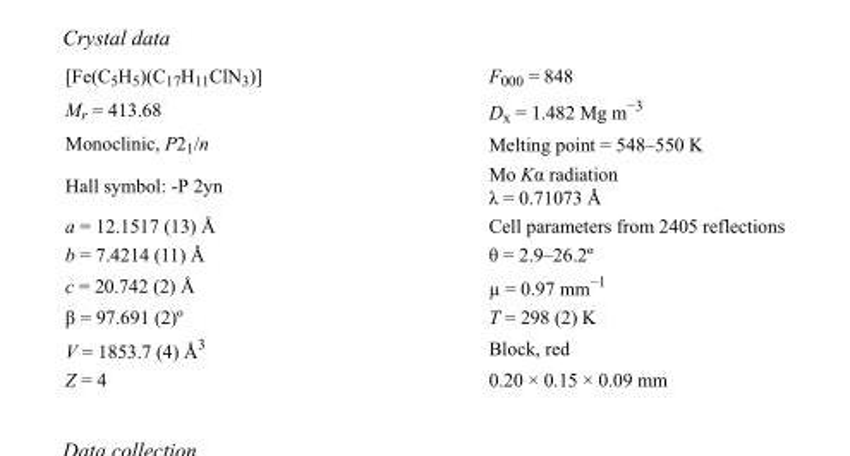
<table><tbody><tr><td>[Fe(C<sub>5</sub>H<sub>5</sub>)(C<sub>17</sub>H<sub>11</sub>ClN<sub>3</sub>)]</td><td>F<sub>000</sub> = 848</td></tr><tr><td>M<sub>r</sub> = 413.68</td><td>D<sub>x</sub> = 1.482 Mg m<sup>−3</sup></td></tr><tr><td>Monoclinic, P2<sub>1</sub>/n</td><td>Melting point = 548–550 K</td></tr><tr><td>Hall symbol: -P 2yn</td><td>Mo Kα radiation λ = 0.71073 Å</td></tr><tr><td>a = 12.1517 (13) Å</td><td>Cell parameters from 2405 reflections</td></tr><tr><td>b = 7.4214 (11) Å</td><td>θ = 2.9–26.2º</td></tr><tr><td>c = 20.742 (2) Å</td><td>µ = 0.97 mm<sup>−1</sup></td></tr><tr><td>β = 97.691 (2)º</td><td>T = 298 (2) K</td></tr><tr><td>V = 1853.7 (4) Å<sup>3</sup></td><td>Block, red</td></tr><tr><td>Z = 4</td><td>0.20 × 0.15 × 0.09 mm</td></tr></tbody></table>